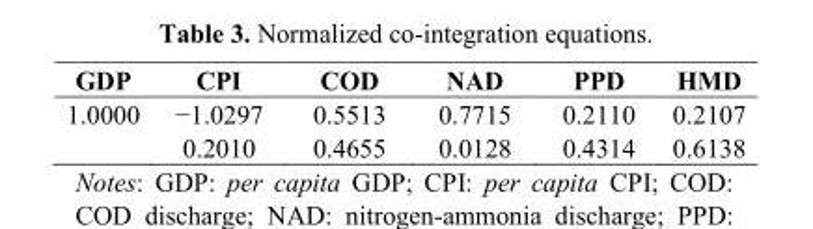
<table><thead><tr><td>GDP</td><td>CPI</td><td>COD</td><td>NAD</td><td>PPD</td><td>HMD</td></tr></thead><tbody><tr><td rowspan="2">1.0000</td><td>−1.0297</td><td>0.5513</td><td>0.7715</td><td>0.2110</td><td>0.2107</td></tr><tr><td>0.2010</td><td>0.4655</td><td>0.0128</td><td>0.4314</td><td>0.6138</td></tr></tbody></table>